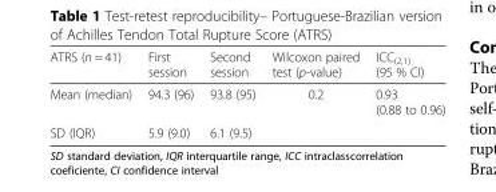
<table><thead><tr><td>ATRS (n = 41)</td><td>First session</td><td>Second session</td><td>Wilcoxon paired test (p-value)</td><td>ICC<sub>(2,1)</sub> (95 % CI)</td></tr></thead><tbody><tr><td>Mean (median)</td><td>94.3 (96)</td><td>93.8 (95)</td><td>0.2</td><td>0.93 (0.88 to 0.96)</td></tr><tr><td>SD (IQR)</td><td>5.9 (9.0)</td><td>6.1 (9.5)</td><td></td><td></td></tr></tbody></table>